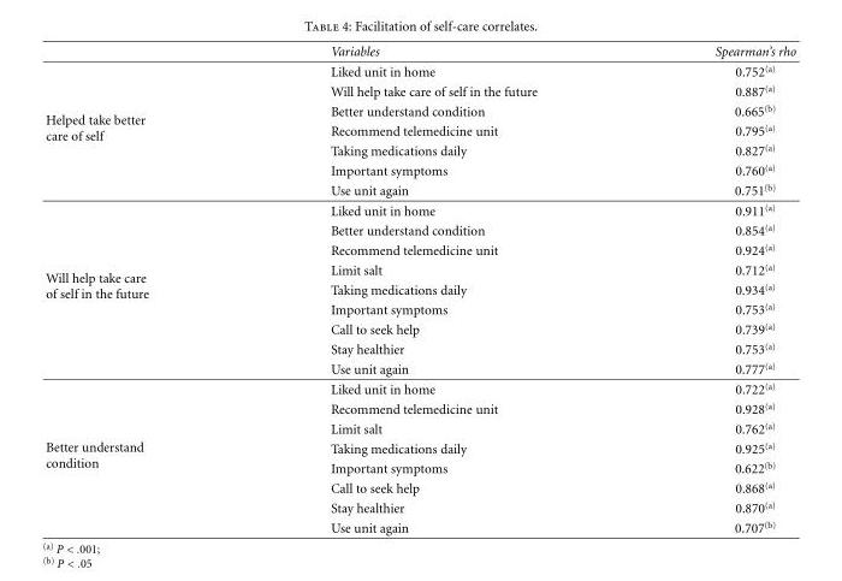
<table><thead><tr><td></td><td>Variables</td><td>Spearman’s rho</td></tr></thead><tbody><tr><td rowspan="7">Helped take better care of self</td><td>Liked unit in home</td><td>0.752<sup>(a)</sup></td></tr><tr><td>Will help take care of self in the future</td><td>0.887<sup>(a)</sup></td></tr><tr><td>Better understand condition</td><td>0.665(b)</td></tr><tr><td>Recommend telemedicine unit</td><td>0.795<sup>(a)</sup></td></tr><tr><td>Taking medications daily</td><td>0.827<sup>(a)</sup></td></tr><tr><td>Important symptoms</td><td>0.760<sup>(a)</sup></td></tr><tr><td>Use unit again</td><td>0.751<sup>(b)</sup></td></tr><tr><td rowspan="9">Will help take care of self in the future</td><td>Liked unit in home</td><td>0.911<sup>(a)</sup></td></tr><tr><td>Better understand condition</td><td>0.854<sup>(a)</sup></td></tr><tr><td>Recommend telemedicine unit</td><td>0.924<sup>(a)</sup></td></tr><tr><td>Limit salt</td><td>0.712<sup>(a)</sup></td></tr><tr><td>Taking medications daily</td><td>0.934<sup>(a)</sup></td></tr><tr><td>Important symptoms</td><td>0.753<sup>(a)</sup></td></tr><tr><td>Call to seek help</td><td>0.739<sup>(a)</sup></td></tr><tr><td>Stay healthier</td><td>0.753<sup>(a)</sup></td></tr><tr><td>Use unit again</td><td>0.777<sup>(a)</sup></td></tr><tr><td rowspan="8">Better understand condition</td><td>Liked unit in home</td><td>0.722<sup>(a)</sup></td></tr><tr><td>Recommend telemedicine unit</td><td>0.928<sup>(a)</sup></td></tr><tr><td>Limit salt</td><td>0.762<sup>(a)</sup></td></tr><tr><td>Taking medications daily</td><td>0.925<sup>(a)</sup></td></tr><tr><td>Important symptoms</td><td>0.622(b)</td></tr><tr><td>Call to seek help</td><td>0.868<sup>(a)</sup></td></tr><tr><td>Stay healthier</td><td>0.870<sup>(a)</sup></td></tr><tr><td>Use unit again</td><td>0.707<sup>(b)</sup></td></tr></tbody></table>